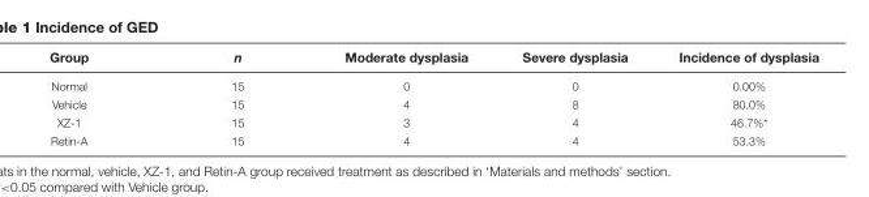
<table><thead><tr><td>Group</td><td>n</td><td>Moderate dysplasia</td><td>Severe dysplasia</td><td>Incidence of dysplasia</td></tr></thead><tbody><tr><td>Normal</td><td>15</td><td>0</td><td>0</td><td>0.00%</td></tr><tr><td>Vehicle</td><td>15</td><td>4</td><td>8</td><td>80.0%</td></tr><tr><td>XZ-1</td><td>15</td><td>3</td><td>4</td><td>46.7%*</td></tr><tr><td>Retin-A</td><td>15</td><td>4</td><td>4</td><td>53.3%</td></tr></tbody></table>